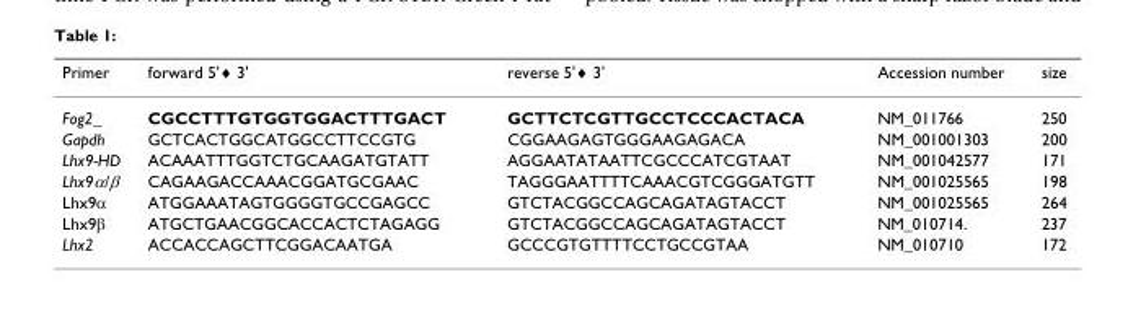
<table><thead><tr><td>Primer</td><td>forward 5&#x27;♦ 3&#x27;</td><td>reverse 5&#x27;♦ 3&#x27;</td><td>Accession number</td><td>size</td></tr></thead><tbody><tr><td>Fog2_</td><td>CGCCTTTGTGGTGGACTTTGACT</td><td>GCTTCTCGTTGCCTCCCACTACA</td><td>NM_011766</td><td>250</td></tr><tr><td>Gapdh</td><td>GCTCACTGGCATGGCCTTCCGTG</td><td>CGGAAGAGTGGGAAGAGACA</td><td>NM_001001303</td><td>200</td></tr><tr><td>Lhx9-HD</td><td>ACAAATTTGGTCTGCAAGATGTATT</td><td>AGGAATATAATTCGCCCATCGTAAT</td><td>NM_001042577</td><td>171</td></tr><tr><td>Lhx9α/β</td><td>CAGAAGACCAAACGGATGCGAAC</td><td>TAGGGAATTTTCAAACGTCGGGATGTT</td><td>NM_001025565</td><td>198</td></tr><tr><td>Lhx9α</td><td>ATGGAAATAGTGGGGTGCCGAGCC</td><td>GTCTACGGCCAGCAGATAGTACCT</td><td>NM_001025565</td><td>264</td></tr><tr><td>Lhx9β</td><td>ATGCTGAACGGCACCACTCTAGAGG</td><td>GTCTACGGCCAGCAGATAGTACCT</td><td>NM_010714.</td><td>237</td></tr><tr><td>Lhx2</td><td>ACCACCAGCTTCGGACAATGA</td><td>GCCCGTGTTTTCCTGCCGTAA</td><td>NM_010710</td><td>172</td></tr></tbody></table>